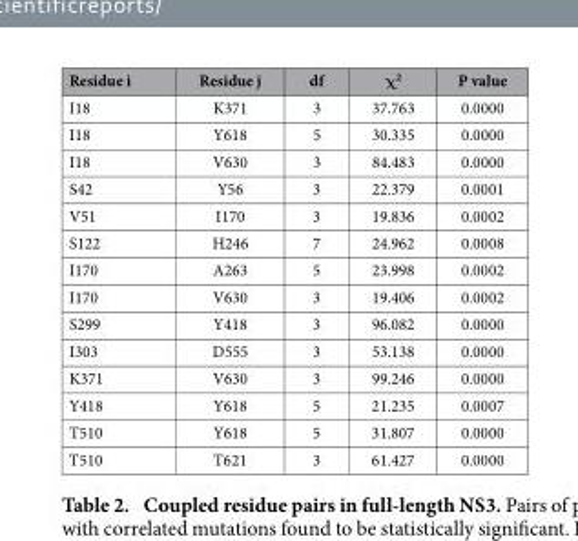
<table><thead><tr><td>Residue i</td><td>Residue j</td><td>df</td><td>χ<sup>2</sup></td><td>P value</td></tr></thead><tbody><tr><td>I18</td><td>K371</td><td>3</td><td>37.763</td><td>0.0000</td></tr><tr><td>I18</td><td>Y618</td><td>5</td><td>30.335</td><td>0.0000</td></tr><tr><td>I18</td><td>V630</td><td>3</td><td>84.483</td><td>0.0000</td></tr><tr><td>S42</td><td>Y56</td><td>3</td><td>22.379</td><td>0.0001</td></tr><tr><td>V51</td><td>I170</td><td>3</td><td>19.836</td><td>0.0002</td></tr><tr><td>S122</td><td>H246</td><td>7</td><td>24.962</td><td>0.0008</td></tr><tr><td>I170</td><td>A263</td><td>5</td><td>23.998</td><td>0.0002</td></tr><tr><td>I170</td><td>V630</td><td>3</td><td>19.406</td><td>0.0002</td></tr><tr><td>S299</td><td>Y418</td><td>3</td><td>96.082</td><td>0.0000</td></tr><tr><td>I303</td><td>D555</td><td>3</td><td>53.138</td><td>0.0000</td></tr><tr><td>K371</td><td>V630</td><td>3</td><td>99.246</td><td>0.0000</td></tr><tr><td>Y418</td><td>Y618</td><td>5</td><td>21.235</td><td>0.0007</td></tr><tr><td>T510</td><td>Y618</td><td>5</td><td>31.807</td><td>0.0000</td></tr><tr><td>T510</td><td>T621</td><td>3</td><td>61.427</td><td>0.0000</td></tr></tbody></table>